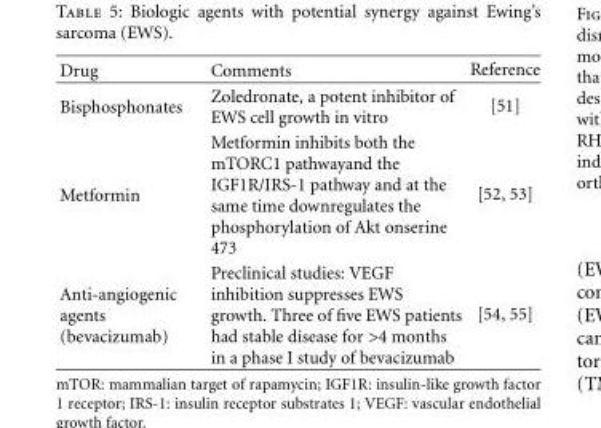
<table><thead><tr><td>Drug</td><td>Comments</td><td>Reference</td></tr></thead><tbody><tr><td>Bisphosphonates</td><td>Zoledronate, a potent inhibitor of EWS cell growth in vitro</td><td>[51]</td></tr><tr><td>Metformin</td><td>Metformin inhibits both the mTORC1 pathwayand the IGF1R/IRS-1 pathway and at the same time downregulates the phosphorylation of Akt onserine 473</td><td>[52, 53]</td></tr><tr><td>Anti-angiogenic agents (bevacizumab)</td><td>Preclinical studies: VEGF inhibition suppresses EWS growth. Three of five EWS patients had stable disease for &gt;4 months in a phase I study of bevacizumab</td><td>[54, 55]</td></tr></tbody></table>